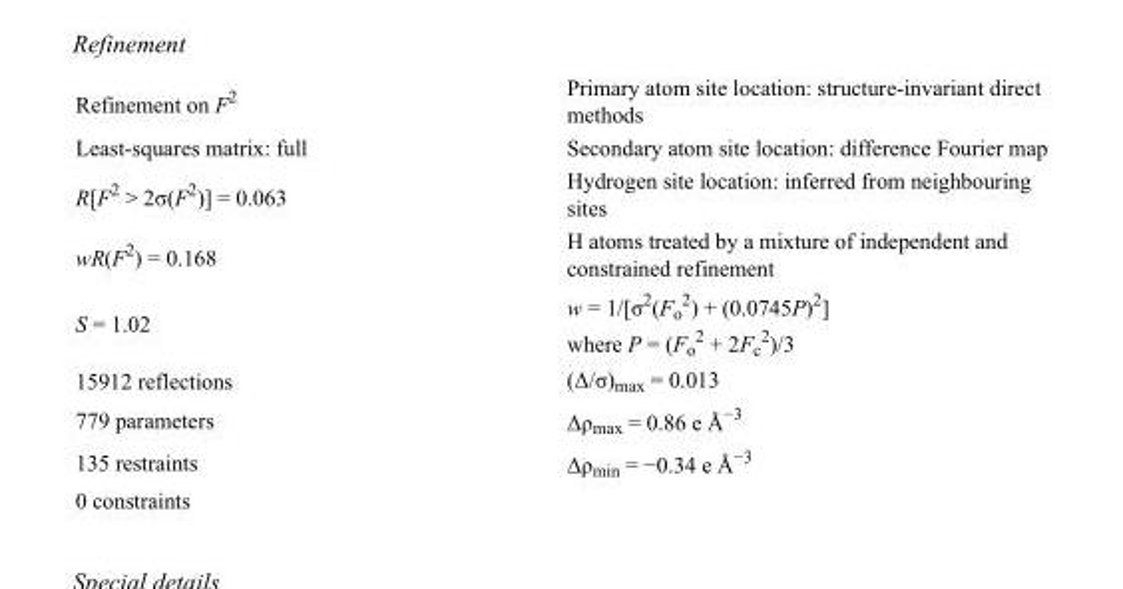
<table><tbody><tr><td>Refinement on F<sup>2</sup></td><td>Primary atom site location: structure-invariant direct methods</td></tr><tr><td>Least-squares matrix: full</td><td>Secondary atom site location: difference Fourier map</td></tr><tr><td>R[F<sup>2</sup> &gt; 2σ(F<sup>2</sup>)] = 0.063</td><td>Hydrogen site location: inferred from neighbouring sites</td></tr><tr><td>wR(F<sup>2</sup>) = 0.168</td><td>H atoms treated by a mixture of independent and constrained refinement</td></tr><tr><td>S = 1.02</td><td>w = 1/[σ<sup>2</sup>(F<sub>o</sub> <sup>2</sup>) + (0.0745P)<sup>2</sup>] where P = (F<sub>o</sub> <sup>2</sup> + 2F<sub>c</sub> <sup>2</sup>)/3</td></tr><tr><td>15912 reflections</td><td>(Δ/σ)<sub>max</sub> = 0.013</td></tr><tr><td>779 parameters</td><td>Δρ<sub>max</sub> = 0.86 e Å<sup>−3</sup></td></tr><tr><td>135 restraints</td><td>Δρ<sub>min</sub> = −0.34 e Å<sup>−3</sup></td></tr><tr><td>0 constraints</td><td></td></tr></tbody></table>